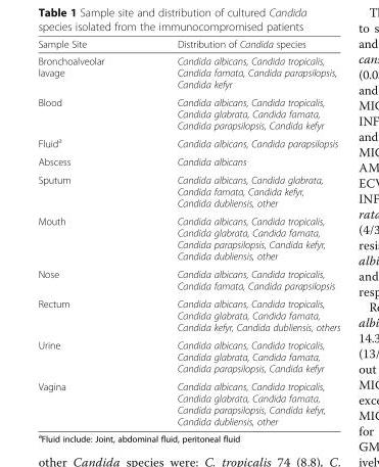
<table><thead><tr><td>Sample Site</td><td>Distribution of Candida species</td></tr></thead><tbody><tr><td>Bronchoalveolar lavage</td><td>Candida albicans, Candida tropicalis, Candida famata, Candida parapsilopsis, Candida kefyr</td></tr><tr><td>Blood</td><td>Candida albicans, Candida tropicalis, Candida glabrata, Candida famata, Candida parapsilopsis, Candida kefyr</td></tr><tr><td>Fluid<sup>a</sup></td><td>Candida albicans, Candida parapsilopsis</td></tr><tr><td>Abscess</td><td>Candida albicans</td></tr><tr><td>Sputum</td><td>Candida albicans, Candida glabrata, Candida famata, Candida kefyr, Candida dubliensis, other</td></tr><tr><td>Mouth</td><td>Candida albicans, Candida tropicalis, Candida glabrata, Candida famata, Candida parapsilopsis, Candida kefyr, Candida dubliensis, other</td></tr><tr><td>Nose</td><td>Candida albicans, Candida tropicalis, Candida famata, Candida parapsilopsis</td></tr><tr><td>Rectum</td><td>Candida albicans, Candida tropicalis, Candida glabrata, Candida famata, Candida kefyr, Candida dubliensis, others</td></tr><tr><td>Urine</td><td>Candida albicans, Candida tropicalis, Candida glabrata, Candida famata, Candida parapsilopsis, Candida kefyr</td></tr><tr><td>Vagina</td><td>Candida albicans, Candida tropicalis, Candida glabrata, Candida famata, Candida parapsilopsis, Candida kefyr, Candida dubliensis, other</td></tr></tbody></table>